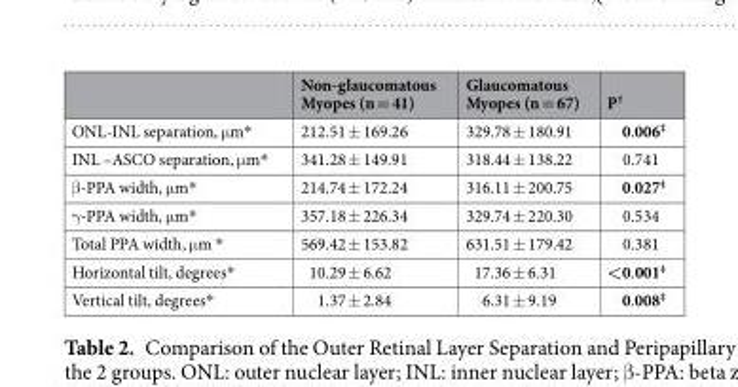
<table><thead><tr><td></td><td>Non-glaucomatous Myopes (n = 41)</td><td>Glaucomatous Myopes (n = 67)</td><td>P<sup>†</sup></td></tr></thead><tbody><tr><td>ONL-INL separation, μm*</td><td>212.51 ± 169.26</td><td>329.78 ± 180.91</td><td>0.006<sup>‡</sup></td></tr><tr><td>INL –ASCO separation, μm*</td><td>341.28 ± 149.91</td><td>318.44 ± 138.22</td><td>0.741</td></tr><tr><td>β-PPA width, μm*</td><td>214.74 ± 172.24</td><td>316.11 ± 200.75</td><td>0.027<sup>‡</sup></td></tr><tr><td>γ-PPA width, μm*</td><td>357.18 ± 226.34</td><td>329.74 ± 220.30</td><td>0.534</td></tr><tr><td>Total PPA width, μm *</td><td>569.42 ± 153.82</td><td>631.51 ± 179.42</td><td>0.381</td></tr><tr><td>Horizontal tilt, degrees*</td><td>10.29 ± 6.62</td><td>17.36 ± 6.31</td><td>&lt;0.001<sup>‡</sup></td></tr><tr><td>Vertical tilt, degrees*</td><td>1.37 ± 2.84</td><td>6.31 ± 9.19</td><td>0.008<sup>‡</sup></td></tr></tbody></table>